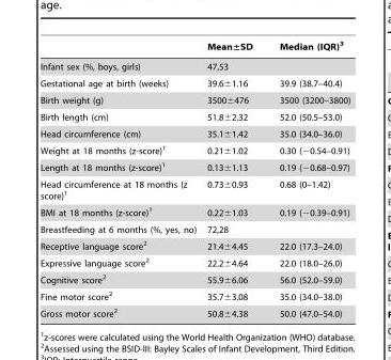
<table><thead><tr><td></td><td>Mean±SD</td><td>Median (IQR)<sup>3</sup></td></tr></thead><tbody><tr><td>Infant sex (%, boys, girls)</td><td>47,53</td><td></td></tr><tr><td>Gestational age at birth (weeks)</td><td>39.6±1.16</td><td>39.9 (38.7–40.4)</td></tr><tr><td>Birth weight (g)</td><td>3500±476</td><td>3500 (3200–3800)</td></tr><tr><td>Birth length (cm)</td><td>51.8±2.32</td><td>52.0 (50.5–53.0)</td></tr><tr><td>Head circumference (cm)</td><td>35.1±1.42</td><td>35.0 (34.0–36.0)</td></tr><tr><td>Weight at 18 months (z-score)<sup>1</sup></td><td>0.21±1.02</td><td>0.30 (−0.54–0.91)</td></tr><tr><td>Length at 18 months (z-score)<sup>1</sup></td><td>0.13±1.13</td><td>0.19 (−0.68–0.97)</td></tr><tr><td>Head circumference at 18 months (z score)<sup>1</sup></td><td>0.73±0.93</td><td>0.68 (0–1.42)</td></tr><tr><td>BMI at 18 months (z-score)<sup>1</sup></td><td>0.22±1.03</td><td>0.19 (−0.39–0.91)</td></tr><tr><td>Breastfeeding at 6 months (%, yes, no)</td><td>72,28</td><td></td></tr><tr><td>Receptive language score<sup>2</sup></td><td>21.4±4.45</td><td>22.0 (17.3–24.0)</td></tr><tr><td>Expressive language score<sup>2</sup></td><td>22.2±4.64</td><td>22.0 (18.0–26.0)</td></tr><tr><td>Cognitive score<sup>2</sup></td><td>55.9±6.06</td><td>56.0 (52.0–59.0)</td></tr><tr><td>Fine motor score<sup>2</sup></td><td>35.7±3.08</td><td>35.0 (34.0–38.0)</td></tr><tr><td>Gross motor score<sup>2</sup></td><td>50.8±4.38</td><td>50.0 (47.0–54.0)</td></tr></tbody></table>